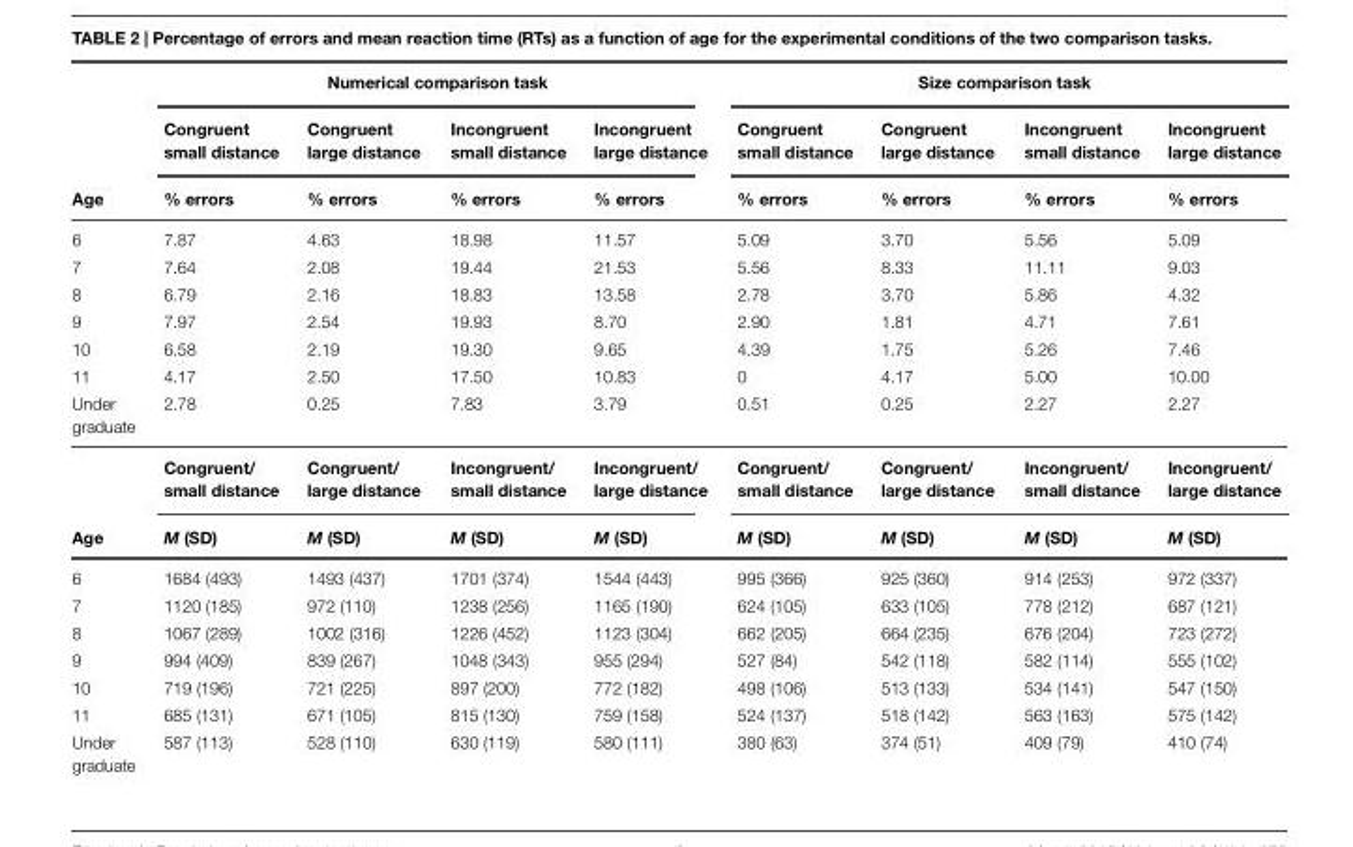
<table><thead><tr><td rowspan="3">Age</td><td colspan="4">Numerical comparison task</td><td colspan="4">Size comparison task</td></tr><tr><td rowspan="2">Congruent small distance % errors</td><td rowspan="2">Congruent large distance % errors</td><td rowspan="2">Incongruent small distance % errors</td><td rowspan="2">Incongruent large distance % errors</td><td rowspan="2">Congruent small distance % errors</td><td rowspan="2">Congruent large distance % errors</td><td rowspan="2">Incongruent small distance % errors</td><td rowspan="2">Incongruent large distance % errors</td></tr><tr></tr></thead><tbody><tr><td>6</td><td>7.87</td><td>4.63</td><td>18.98</td><td>11.57</td><td>5.09</td><td>3.70</td><td>5.56</td><td>5.09</td></tr><tr><td>7</td><td>7.64</td><td>2.08</td><td>19.44</td><td>21.53</td><td>5.56</td><td>8.33</td><td>11.11</td><td>9.03</td></tr><tr><td>8</td><td>6.79</td><td>2.16</td><td>18.83</td><td>13.58</td><td>2.78</td><td>3.70</td><td>5.86</td><td>4.32</td></tr><tr><td>9</td><td>7.97</td><td>2.54</td><td>19.93</td><td>8.70</td><td>2.90</td><td>1.81</td><td>4.71</td><td>7.61</td></tr><tr><td>10</td><td>6.58</td><td>2.19</td><td>19.30</td><td>9.65</td><td>4.39</td><td>1.75</td><td>5.26</td><td>7.46</td></tr><tr><td>11</td><td>4.17</td><td>2.50</td><td>17.50</td><td>10.83</td><td>0</td><td>4.17</td><td>5.00</td><td>10.00</td></tr><tr><td rowspan="2">Under graduate</td><td>2.78</td><td>0.25</td><td>7.83</td><td>3.79</td><td>0.51</td><td>0.25</td><td>2.27</td><td>2.27</td></tr><tr><td>Congruent/ small distance</td><td>Congruent/ large distance</td><td>Incongruent/ small distance</td><td>Incongruent/ large distance</td><td>Congruent/ small distance</td><td>Congruent/ large distance</td><td>Incongruent/ small distance</td><td>Incongruent/ large distance</td></tr><tr><td>Age</td><td>M (SD)</td><td>M (SD)</td><td>M (SD)</td><td>M (SD)</td><td>M (SD)</td><td>M (SD)</td><td>M (SD)</td><td>M (SD)</td></tr><tr><td>6</td><td>1684 (493)</td><td>1493 (437)</td><td>1701 (374)</td><td>1544 (443)</td><td>995 (366)</td><td>925 (360)</td><td>914 (253)</td><td>972 (337)</td></tr><tr><td>7</td><td>1120 (185)</td><td>972 (110)</td><td>1238 (256)</td><td>1165 (190)</td><td>624 (105)</td><td>633 (105)</td><td>778 (212)</td><td>687 (121)</td></tr><tr><td>8</td><td>1067 (289)</td><td>1002 (316)</td><td>1226 (452)</td><td>1123 (304)</td><td>662 (205)</td><td>664 (235)</td><td>676 (204)</td><td>723 (272)</td></tr><tr><td>9</td><td>994 (409)</td><td>839 (267)</td><td>1048 (343)</td><td>955 (294)</td><td>527 (84)</td><td>542 (118)</td><td>582 (114)</td><td>555 (102)</td></tr><tr><td>10</td><td>719 (196)</td><td>721 (225)</td><td>897 (200)</td><td>772 (182)</td><td>498 (106)</td><td>513 (133)</td><td>534 (141)</td><td>547 (150)</td></tr><tr><td>11</td><td>685 (131)</td><td>671 (105)</td><td>815 (130)</td><td>759 (158)</td><td>524 (137)</td><td>518 (142)</td><td>563 (163)</td><td>575 (142)</td></tr><tr><td>Under graduate</td><td>587 (113)</td><td>528 (110)</td><td>630 (119)</td><td>580 (111)</td><td>380 (63)</td><td>374 (51)</td><td>409 (79)</td><td>410 (74)</td></tr></tbody></table>